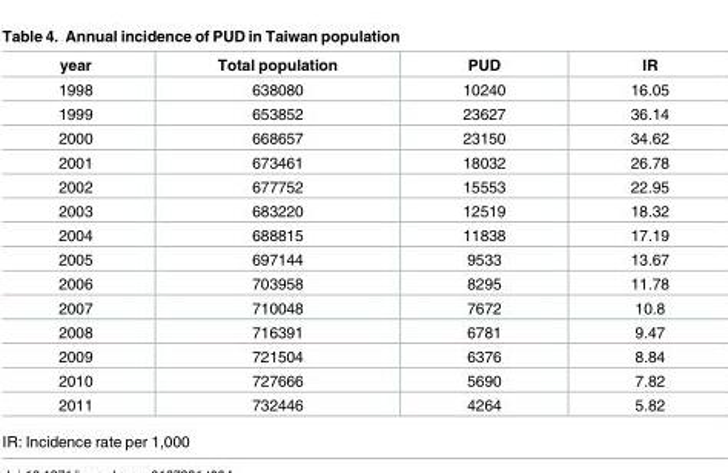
<table><thead><tr><td>year</td><td>Total population</td><td>PUD</td><td>IR</td></tr></thead><tbody><tr><td>1998</td><td>638080</td><td>10240</td><td>16.05</td></tr><tr><td>1999</td><td>653852</td><td>23627</td><td>36.14</td></tr><tr><td>2000</td><td>668657</td><td>23150</td><td>34.62</td></tr><tr><td>2001</td><td>673461</td><td>18032</td><td>26.78</td></tr><tr><td>2002</td><td>677752</td><td>15553</td><td>22.95</td></tr><tr><td>2003</td><td>683220</td><td>12519</td><td>18.32</td></tr><tr><td>2004</td><td>688815</td><td>11838</td><td>17.19</td></tr><tr><td>2005</td><td>697144</td><td>9533</td><td>13.67</td></tr><tr><td>2006</td><td>703958</td><td>8295</td><td>11.78</td></tr><tr><td>2007</td><td>710048</td><td>7672</td><td>10.8</td></tr><tr><td>2008</td><td>716391</td><td>6781</td><td>9.47</td></tr><tr><td>2009</td><td>721504</td><td>6376</td><td>8.84</td></tr><tr><td>2010</td><td>727666</td><td>5690</td><td>7.82</td></tr><tr><td>2011</td><td>732446</td><td>4264</td><td>5.82</td></tr></tbody></table>